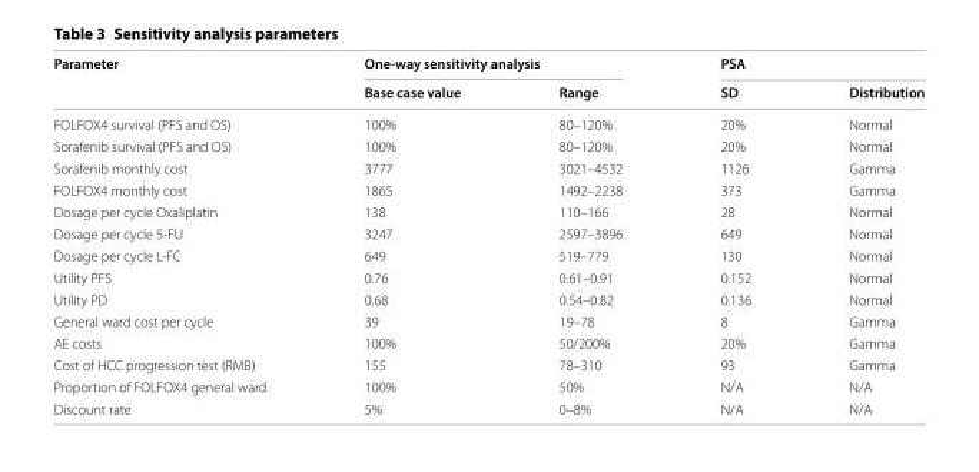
<table><thead><tr><td rowspan="2">Parameter</td><td colspan="2">One‑way sensitivity analysis</td><td colspan="2">PSA</td></tr><tr><td>Base case value</td><td>Range</td><td>SD</td><td>Distribution</td></tr></thead><tbody><tr><td>FOLFOX4 survival (PFS and OS)</td><td>100%</td><td>80–120%</td><td>20%</td><td>Normal</td></tr><tr><td>Sorafenib survival (PFS and OS)</td><td>100%</td><td>80–120%</td><td>20%</td><td>Normal</td></tr><tr><td>Sorafenib monthly cost</td><td>3777</td><td>3021–4532</td><td>1126</td><td>Gamma</td></tr><tr><td>FOLFOX4 monthly cost</td><td>1865</td><td>1492–2238</td><td>373</td><td>Gamma</td></tr><tr><td>Dosage per cycle Oxaliplatin</td><td>138</td><td>110–166</td><td>28</td><td>Normal</td></tr><tr><td>Dosage per cycle 5-FU</td><td>3247</td><td>2597–3896</td><td>649</td><td>Normal</td></tr><tr><td>Dosage per cycle L-FC</td><td>649</td><td>519–779</td><td>130</td><td>Normal</td></tr><tr><td>Utility PFS</td><td>0.76</td><td>0.61–0.91</td><td>0.152</td><td>Normal</td></tr><tr><td>Utility PD</td><td>0.68</td><td>0.54–0.82</td><td>0.136</td><td>Normal</td></tr><tr><td>General ward cost per cycle</td><td>39</td><td>19–78</td><td>8</td><td>Gamma</td></tr><tr><td>AE costs</td><td>100%</td><td>50/200%</td><td>20%</td><td>Gamma</td></tr><tr><td>Cost of HCC progression test (RMB)</td><td>155</td><td>78–310</td><td>93</td><td>Gamma</td></tr><tr><td>Proportion of FOLFOX4 general ward</td><td>100%</td><td>50%</td><td>N/A</td><td>N/A</td></tr><tr><td>Discount rate</td><td>5%</td><td>0–8%</td><td>N/A</td><td>N/A</td></tr></tbody></table>